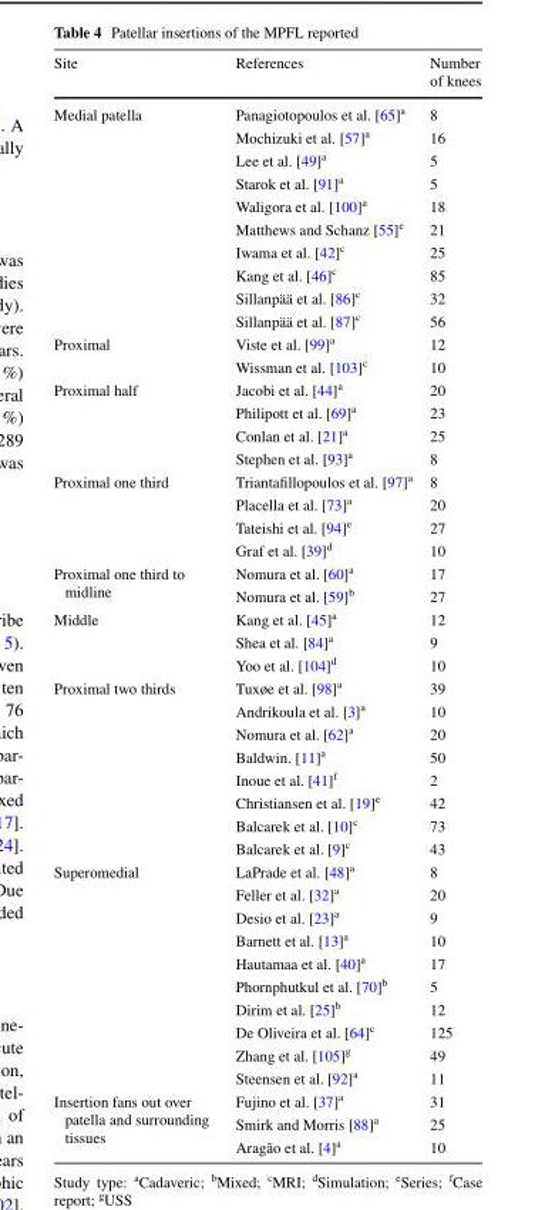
<table><thead><tr><td>Site</td><td>References</td><td>Number of knees</td></tr></thead><tbody><tr><td rowspan="10">Medial patella</td><td>Panagiotopoulos et al. [65]<sup>a</sup></td><td>8</td></tr><tr><td>Mochizuki et al. [57]<sup>a</sup></td><td>16</td></tr><tr><td>Lee et al. [49]<sup>a</sup></td><td>5</td></tr><tr><td>Starok et al. [91]<sup>a</sup></td><td>5</td></tr><tr><td>Waligora et al. [100]<sup>a</sup></td><td>18</td></tr><tr><td>Matthews and Schanz [55]<sup>e</sup></td><td>21</td></tr><tr><td>Iwama et al. [42]<sup>c</sup></td><td>25</td></tr><tr><td>Kang et al. [46]<sup>c</sup></td><td>85</td></tr><tr><td>Sillanpää et al. [86]<sup>c</sup></td><td>32</td></tr><tr><td>Sillanpää et al. [87]<sup>c</sup></td><td>56</td></tr><tr><td rowspan="2">Proximal</td><td>Viste et al. [99]<sup>a</sup></td><td>12</td></tr><tr><td>Wissman et al. [103]<sup>c</sup></td><td>10</td></tr><tr><td rowspan="4">Proximal half</td><td>Jacobi et al. [44]<sup>a</sup></td><td>20</td></tr><tr><td>Philipott et al. [69]<sup>a</sup></td><td>23</td></tr><tr><td>Conlan et al. [21]<sup>a</sup></td><td>25</td></tr><tr><td>Stephen et al. [93]<sup>a</sup></td><td>8</td></tr><tr><td rowspan="4">Proximal one third</td><td>Triantafillopoulos et al. [97]<sup>a</sup></td><td>8</td></tr><tr><td>Placella et al. [73]<sup>a</sup></td><td>20</td></tr><tr><td>Tateishi et al. [94]<sup>e</sup></td><td>27</td></tr><tr><td>Graf et al. [39]<sup>d</sup></td><td>10</td></tr><tr><td rowspan="2">Proximal one third to midline</td><td>Nomura et al. [60]<sup>a</sup></td><td>17</td></tr><tr><td>Nomura et al. [59]<sup>b</sup></td><td>27</td></tr><tr><td rowspan="3">Middle</td><td>Kang et al. [45]<sup>a</sup></td><td>12</td></tr><tr><td>Shea et al. [84]<sup>a</sup></td><td>9</td></tr><tr><td>Yoo et al. [104]<sup>d</sup></td><td>10</td></tr><tr><td rowspan="8">Proximal two thirds</td><td>Tuxøe et al. [98]<sup>a</sup></td><td>39</td></tr><tr><td>Andrikoula et al. [3]<sup>a</sup></td><td>10</td></tr><tr><td>Nomura et al. [62]<sup>a</sup></td><td>20</td></tr><tr><td>Baldwin. [11]<sup>a</sup></td><td>50</td></tr><tr><td>Inoue et al. [41]<sup>f</sup></td><td>2</td></tr><tr><td>Christiansen et al. [19]<sup>e</sup></td><td>42</td></tr><tr><td>Balcarek et al. [10]<sup>c</sup></td><td>73</td></tr><tr><td>Balcarek et al. [9]<sup>c</sup></td><td>43</td></tr><tr><td rowspan="10">Superomedial</td><td>LaPrade et al. [48]<sup>a</sup></td><td>8</td></tr><tr><td>Feller et al. [32]<sup>a</sup></td><td>20</td></tr><tr><td>Desio et al. [23]<sup>a</sup></td><td>9</td></tr><tr><td>Barnett et al. [13]<sup>a</sup></td><td>10</td></tr><tr><td>Hautamaa et al. [40]<sup>a</sup></td><td>17</td></tr><tr><td>Phornphutkul et al. [70]<sup>b</sup></td><td>5</td></tr><tr><td>Dirim et al. [25]<sup>b</sup></td><td>12</td></tr><tr><td>De Oliveira et al. [64]<sup>c</sup></td><td>125</td></tr><tr><td>Zhang et al. [105]<sup>g</sup></td><td>49</td></tr><tr><td>Steensen et al. [92]<sup>a</sup></td><td>11</td></tr><tr><td rowspan="3">Insertion fans out over patella and surrounding tissues</td><td>Fujino et al. [37]<sup>a</sup></td><td>31</td></tr><tr><td>Smirk and Morris [88]<sup>a</sup></td><td>25</td></tr><tr><td>Aragão et al. [4]<sup>a</sup></td><td>10</td></tr></tbody></table>